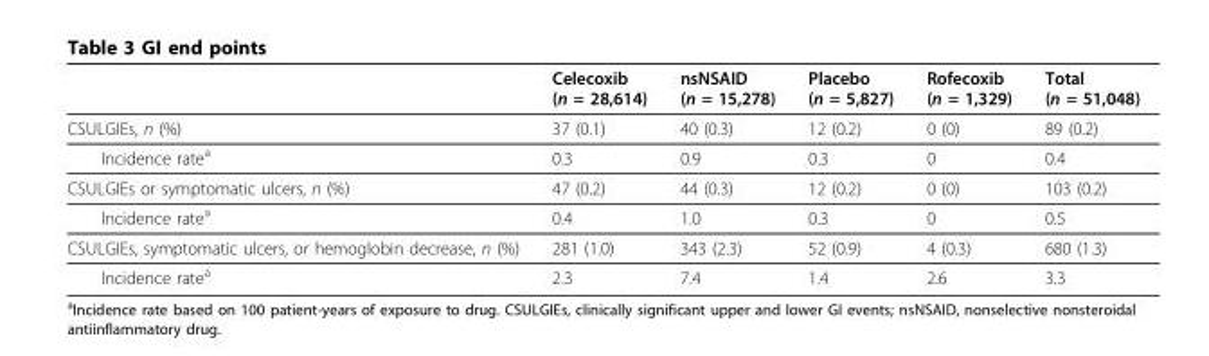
<table><thead><tr><td></td><td>Celecoxib (n = 28,614)</td><td>nsNSAID (n = 15,278)</td><td>Placebo (n = 5,827)</td><td>Rofecoxib (n = 1,329)</td><td>Total (n = 51,048)</td></tr></thead><tbody><tr><td>CSULGIEs, n (%)</td><td>37 (0.1)</td><td>40 (0.3)</td><td>12 (0.2)</td><td>0 (0)</td><td>89 (0.2)</td></tr><tr><td>Incidence rate<sup>a</sup></td><td>0.3</td><td>0.9</td><td>0.3</td><td>0</td><td>0.4</td></tr><tr><td>CSULGIEs or symptomatic ulcers, n (%)</td><td>47 (0.2)</td><td>44 (0.3)</td><td>12 (0.2)</td><td>0 (0)</td><td>103 (0.2)</td></tr><tr><td>Incidence rate<sup>a</sup></td><td>0.4</td><td>1.0</td><td>0.3</td><td>0</td><td>0.5</td></tr><tr><td>CSULGIEs, symptomatic ulcers, or hemoglobin decrease, n (%)</td><td>281 (1.0)</td><td>343 (2.3)</td><td>52 (0.9)</td><td>4 (0.3)</td><td>680 (1.3)</td></tr><tr><td>Incidence rate<sup>a</sup></td><td>2.3</td><td>7.4</td><td>1.4</td><td>2.6</td><td>3.3</td></tr></tbody></table>